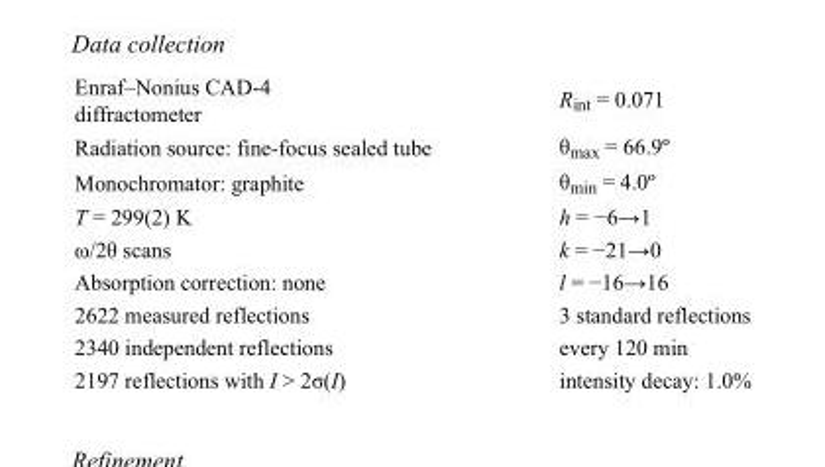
<table><tbody><tr><td>Enraf–Nonius CAD-4 diffractometer</td><td>R<sub>int</sub> = 0.071</td></tr><tr><td>Radiation source: fine-focus sealed tube</td><td>θ<sub>max</sub> = 66.9º</td></tr><tr><td>Monochromator: graphite</td><td>θ<sub>min</sub> = 4.0º</td></tr><tr><td>T = 299(2) K</td><td>h = −6→1</td></tr><tr><td>ω/2θ scans</td><td>k = −21→0</td></tr><tr><td>Absorption correction: none</td><td>l = −16→16</td></tr><tr><td>2622 measured reflections</td><td>3 standard reflections</td></tr><tr><td>2340 independent reflections</td><td>every 120 min</td></tr><tr><td>2197 reflections with I &gt; 2σ(I)</td><td>intensity decay: 1.0%</td></tr></tbody></table>